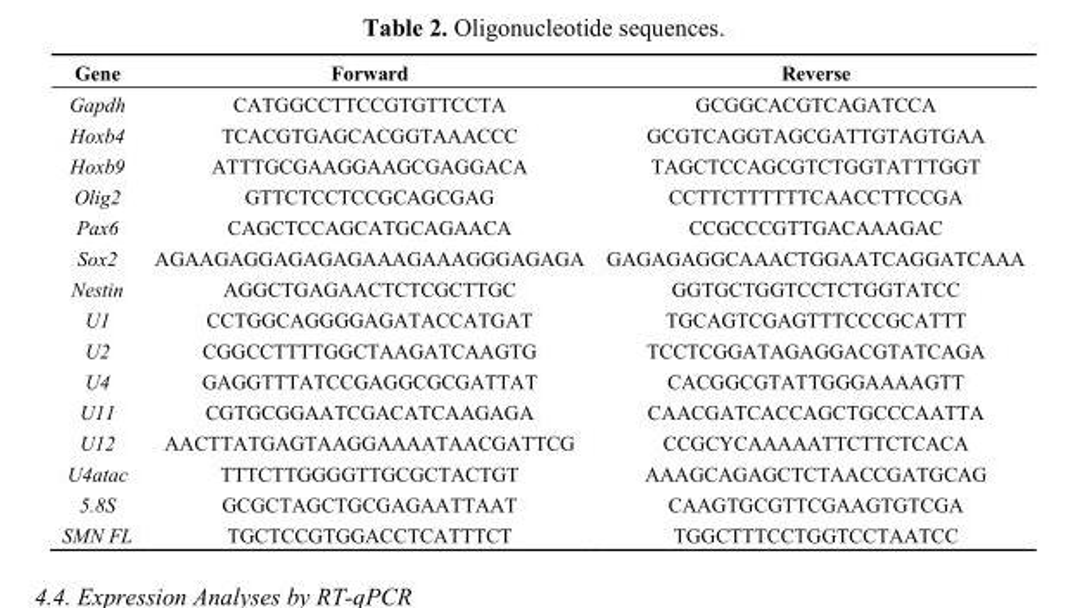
<table><thead><tr><td>Gene</td><td>Forward</td><td>Reverse</td></tr></thead><tbody><tr><td>Gapdh</td><td>CATGGCCTTCCGTGTTCCTA</td><td>GCGGCACGTCAGATCCA</td></tr><tr><td>Hoxb4</td><td>TCACGTGAGCACGGTAAACCC</td><td>GCGTCAGGTAGCGATTGTAGTGAA</td></tr><tr><td>Hoxb9</td><td>ATTTGCGAAGGAAGCGAGGACA</td><td>TAGCTCCAGCGTCTGGTATTTGGT</td></tr><tr><td>Olig2</td><td>GTTCTCCTCCGCAGCGAG</td><td>CCTTCTTTTTTCAACCTTCCGA</td></tr><tr><td>Pax6</td><td>CAGCTCCAGCATGCAGAACA</td><td>CCGCCCGTTGACAAAGAC</td></tr><tr><td>Sox2</td><td>AGAAGAGGAGAGAGAAAGAAAGGGAGAGA</td><td>GAGAGAGGCAAACTGGAATCAGGATCAAA</td></tr><tr><td>Nestin</td><td>AGGCTGAGAACTCTCGCTTGC</td><td>GGTGCTGGTCCTCTGGTATCC</td></tr><tr><td>U1</td><td>CCTGGCAGGGGAGATACCATGAT</td><td>TGCAGTCGAGTTTCCCGCATTT</td></tr><tr><td>U2</td><td>CGGCCTTTTGGCTAAGATCAAGTG</td><td>TCCTCGGATAGAGGACGTATCAGA</td></tr><tr><td>U4</td><td>GAGGTTTATCCGAGGCGCGATTAT</td><td>CACGGCGTATTGGGAAAAGTT</td></tr><tr><td>U11</td><td>CGTGCGGAATCGACATCAAGAGA</td><td>CAACGATCACCAGCTGCCCAATTA</td></tr><tr><td>U12</td><td>AACTTATGAGTAAGGAAAATAACGATTCG</td><td>CCGCYCAAAAATTCTTCTCACA</td></tr><tr><td>U4atac</td><td>TTTCTTGGGGTTGCGCTACTGT</td><td>AAAGCAGAGCTCTAACCGATGCAG</td></tr><tr><td>5.8S</td><td>GCGCTAGCTGCGAGAATTAAT</td><td>CAAGTGCGTTCGAAGTGTCGA</td></tr><tr><td>SMN FL</td><td>TGCTCCGTGGACCTCATTTCT</td><td>TGGCTTTCCTGGTCCTAATCC</td></tr></tbody></table>